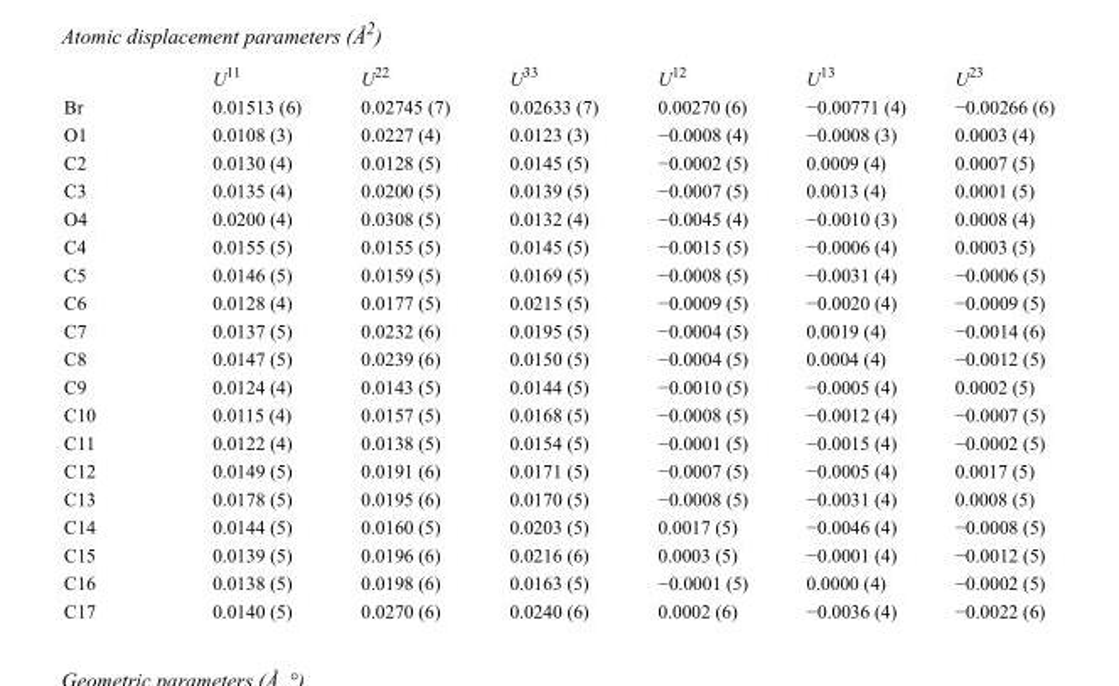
<table><thead><tr><td></td><td>U<sup>11</sup></td><td>U<sup>22</sup></td><td>U<sup>33</sup></td><td>U<sup>12</sup></td><td>U<sup>13</sup></td><td>U<sup>23</sup></td></tr></thead><tbody><tr><td>Br</td><td>0.01513 (6)</td><td>0.02745 (7)</td><td>0.02633 (7)</td><td>0.00270 (6)</td><td>−0.00771 (4)</td><td>−0.00266 (6)</td></tr><tr><td>O1</td><td>0.0108 (3)</td><td>0.0227 (4)</td><td>0.0123 (3)</td><td>−0.0008 (4)</td><td>−0.0008 (3)</td><td>0.0003 (4)</td></tr><tr><td>C2</td><td>0.0130 (4)</td><td>0.0128 (5)</td><td>0.0145 (5)</td><td>−0.0002 (5)</td><td>0.0009 (4)</td><td>0.0007 (5)</td></tr><tr><td>C3</td><td>0.0135 (4)</td><td>0.0200 (5)</td><td>0.0139 (5)</td><td>−0.0007 (5)</td><td>0.0013 (4)</td><td>0.0001 (5)</td></tr><tr><td>O4</td><td>0.0200 (4)</td><td>0.0308 (5)</td><td>0.0132 (4)</td><td>−0.0045 (4)</td><td>−0.0010 (3)</td><td>0.0008 (4)</td></tr><tr><td>C4</td><td>0.0155 (5)</td><td>0.0155 (5)</td><td>0.0145 (5)</td><td>−0.0015 (5)</td><td>−0.0006 (4)</td><td>0.0003 (5)</td></tr><tr><td>C5</td><td>0.0146 (5)</td><td>0.0159 (5)</td><td>0.0169 (5)</td><td>−0.0008 (5)</td><td>−0.0031 (4)</td><td>−0.0006 (5)</td></tr><tr><td>C6</td><td>0.0128 (4)</td><td>0.0177 (5)</td><td>0.0215 (5)</td><td>−0.0009 (5)</td><td>−0.0020 (4)</td><td>−0.0009 (5)</td></tr><tr><td>C7</td><td>0.0137 (5)</td><td>0.0232 (6)</td><td>0.0195 (5)</td><td>−0.0004 (5)</td><td>0.0019 (4)</td><td>−0.0014 (6)</td></tr><tr><td>C8</td><td>0.0147 (5)</td><td>0.0239 (6)</td><td>0.0150 (5)</td><td>−0.0004 (5)</td><td>0.0004 (4)</td><td>−0.0012 (5)</td></tr><tr><td>C9</td><td>0.0124 (4)</td><td>0.0143 (5)</td><td>0.0144 (5)</td><td>−0.0010 (5)</td><td>−0.0005 (4)</td><td>0.0002 (5)</td></tr><tr><td>C10</td><td>0.0115 (4)</td><td>0.0157 (5)</td><td>0.0168 (5)</td><td>−0.0008 (5)</td><td>−0.0012 (4)</td><td>−0.0007 (5)</td></tr><tr><td>C11</td><td>0.0122 (4)</td><td>0.0138 (5)</td><td>0.0154 (5)</td><td>−0.0001 (5)</td><td>−0.0015 (4)</td><td>−0.0002 (5)</td></tr><tr><td>C12</td><td>0.0149 (5)</td><td>0.0191 (6)</td><td>0.0171 (5)</td><td>−0.0007 (5)</td><td>−0.0005 (4)</td><td>0.0017 (5)</td></tr><tr><td>C13</td><td>0.0178 (5)</td><td>0.0195 (6)</td><td>0.0170 (5)</td><td>−0.0008 (5)</td><td>−0.0031 (4)</td><td>0.0008 (5)</td></tr><tr><td>C14</td><td>0.0144 (5)</td><td>0.0160 (5)</td><td>0.0203 (5)</td><td>0.0017 (5)</td><td>−0.0046 (4)</td><td>−0.0008 (5)</td></tr><tr><td>C15</td><td>0.0139 (5)</td><td>0.0196 (6)</td><td>0.0216 (6)</td><td>0.0003 (5)</td><td>−0.0001 (4)</td><td>−0.0012 (5)</td></tr><tr><td>C16</td><td>0.0138 (5)</td><td>0.0198 (6)</td><td>0.0163 (5)</td><td>−0.0001 (5)</td><td>0.0000 (4)</td><td>−0.0002 (5)</td></tr><tr><td>C17</td><td>0.0140 (5)</td><td>0.0270 (6)</td><td>0.0240 (6)</td><td>0.0002 (6)</td><td>−0.0036 (4)</td><td>−0.0022 (6)</td></tr></tbody></table>